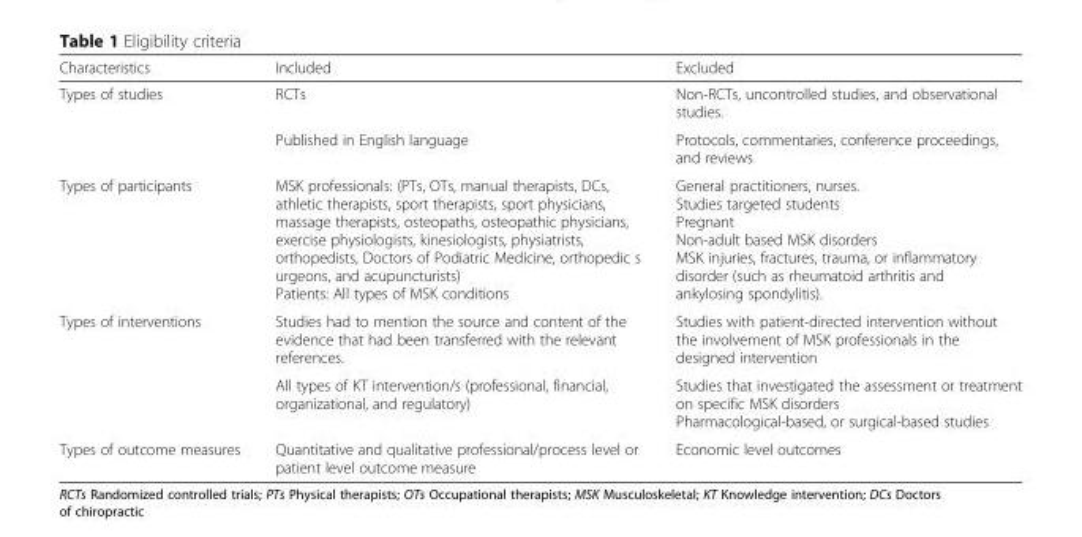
<table><thead><tr><td>Characteristics</td><td>Included</td><td>Excluded</td></tr></thead><tbody><tr><td rowspan="2">Types of studies</td><td>RCTs</td><td>Non-RCTs, uncontrolled studies, and observational studies.</td></tr><tr><td>Published in English language</td><td>Protocols, commentaries, conference proceedings, and reviews</td></tr><tr><td>Types of participants</td><td>MSK professionals: (PTs, OTs, manual therapists, DCs, athletic therapists, sport therapists, sport physicians, massage therapists, osteopaths, osteopathic physicians, exercise physiologists, kinesiologists, physiatrists, orthopedists, Doctors of Podiatric Medicine, orthopedic s urgeons, and acupuncturists) Patients: All types of MSK conditions</td><td>General practitioners, nurses. Studies targeted students Pregnant Non-adult based MSK disorders MSK injuries, fractures, trauma, or inflammatory disorder (such as rheumatoid arthritis and ankylosing spondylitis).</td></tr><tr><td rowspan="2">Types of interventions</td><td>Studies had to mention the source and content of the evidence that had been transferred with the relevant references.</td><td>Studies with patient-directed intervention without the involvement of MSK professionals in the designed intervention</td></tr><tr><td>All types of KT intervention/s (professional, financial, organizational, and regulatory)</td><td>Studies that investigated the assessment or treatment on specific MSK disorders Pharmacological-based, or surgical-based studies</td></tr><tr><td>Types of outcome measures</td><td>Quantitative and qualitative professional/process level or patient level outcome measure</td><td>Economic level outcomes</td></tr></tbody></table>